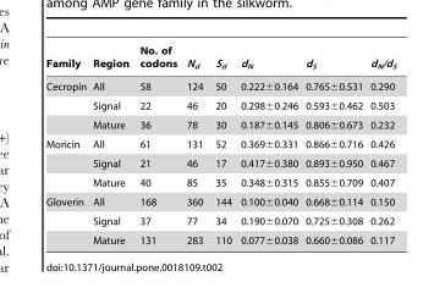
<table><thead><tr><td>Family</td><td>Region</td><td>No. of codons</td><td>N<sub>d</sub></td><td>S<sub>d</sub></td><td>d<sub>N</sub></td><td>d<sub>S</sub></td><td>d<sub>N</sub>/d<sub>S</sub></td></tr></thead><tbody><tr><td rowspan="3">Cecropin</td><td>All</td><td>58</td><td>124</td><td>50</td><td>0.222±0.164</td><td>0.765±0.531</td><td>0.290</td></tr><tr><td>Signal</td><td>22</td><td>46</td><td>20</td><td>0.298±0.246</td><td>0.593±0.462</td><td>0.503</td></tr><tr><td>Mature</td><td>36</td><td>78</td><td>30</td><td>0.187±0.145</td><td>0.806±0.673</td><td>0.232</td></tr><tr><td rowspan="3">Moricin</td><td>All</td><td>61</td><td>131</td><td>52</td><td>0.369±0.331</td><td>0.866±0.716</td><td>0.426</td></tr><tr><td>Signal</td><td>21</td><td>46</td><td>17</td><td>0.417±0.380</td><td>0.893±0.950</td><td>0.467</td></tr><tr><td>Mature</td><td>40</td><td>85</td><td>35</td><td>0.348±0.315</td><td>0.855±0.709</td><td>0.407</td></tr><tr><td rowspan="3">Gloverin</td><td>All</td><td>168</td><td>360</td><td>144</td><td>0.100±0.040</td><td>0.668±0.114</td><td>0.150</td></tr><tr><td>Signal</td><td>37</td><td>77</td><td>34</td><td>0.190±0.070</td><td>0.725±0.308</td><td>0.262</td></tr><tr><td>Mature</td><td>131</td><td>283</td><td>110</td><td>0.077±0.038</td><td>0.660±0.086</td><td>0.117</td></tr></tbody></table>